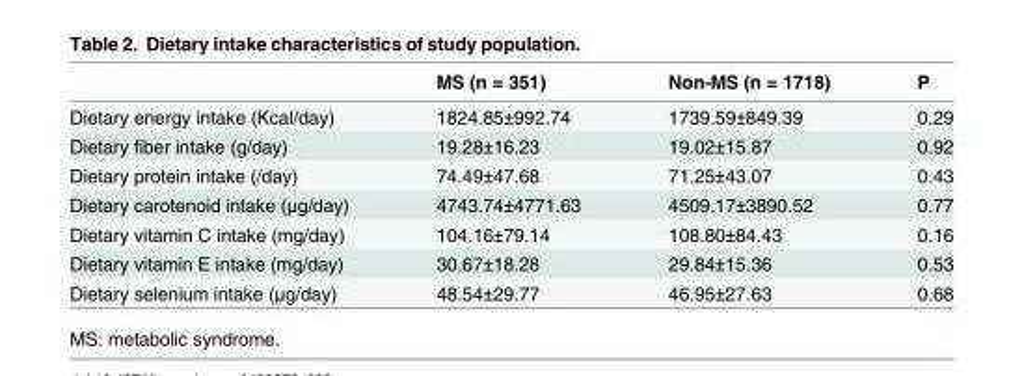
<table><thead><tr><td></td><td>MS (n = 351)</td><td>Non-MS (n = 1718)</td><td>P</td></tr></thead><tbody><tr><td>Dietary energy intake (Kcal/day)</td><td>1824.85±992.74</td><td>1739.59±849.39</td><td>0.29</td></tr><tr><td>Dietary fiber intake (g/day)</td><td>19.28±16.23</td><td>19.02±15.87</td><td>0.92</td></tr><tr><td>Dietary protein intake (/day)</td><td>74.49±47.68</td><td>71.25±43.07</td><td>0.43</td></tr><tr><td>Dietary carotenoid intake (μg/day)</td><td>4743.74±4771.63</td><td>4509.17±3890.52</td><td>0.77</td></tr><tr><td>Dietary vitamin C intake (mg/day)</td><td>104.16±79.14</td><td>108.80±84.43</td><td>0.16</td></tr><tr><td>Dietary vitamin E intake (mg/day)</td><td>30.67±18.28</td><td>29.84±15.36</td><td>0.53</td></tr><tr><td>Dietary selenium intake (μg/day)</td><td>48.54±29.77</td><td>46.95±27.63</td><td>0.68</td></tr></tbody></table>